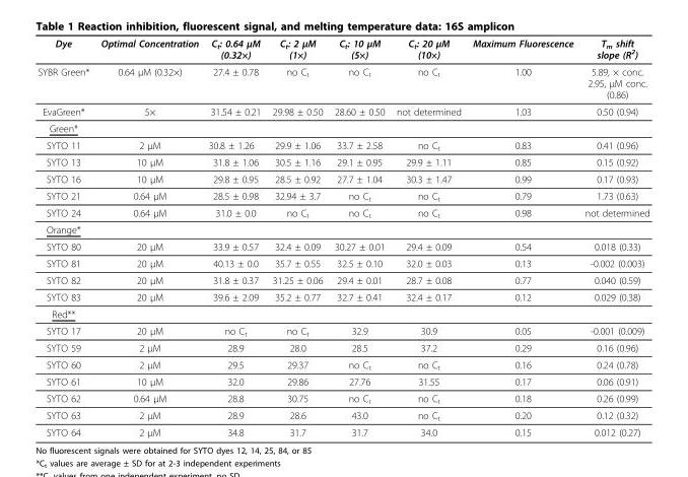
<table><thead><tr><td>Dye</td><td>Optimal Concentration</td><td>C<sub>t</sub>: 0.64 μM (0.32×)</td><td>C<sub>t</sub>: 2 μM (1×)</td><td>C<sub>t</sub>: 10 μM (5×)</td><td>C<sub>t</sub>: 20 μM (10×)</td><td>Maximum Fluorescence</td><td>T<sub>m</sub> shift slope (R<sup>2</sup>)</td></tr></thead><tbody><tr><td>SYBR Green*</td><td>0.64 μM (0.32×)</td><td>27.4 ± 0.78</td><td>no C<sub>t</sub></td><td>no C<sub>t</sub></td><td>no C<sub>t</sub></td><td>1.00</td><td>5.89, × conc. 2.95, μM conc. (0.86)</td></tr><tr><td>EvaGreen*</td><td>5×</td><td>31.54 ± 0.21</td><td>29.98 ± 0.50</td><td>28.60 ± 0.50</td><td>not determined</td><td>1.03</td><td>0.50 (0.94)</td></tr><tr><td colspan="8">Green*</td></tr><tr><td>SYTO 11</td><td>2 μM</td><td>30.8 ± 1.26</td><td>29.9 ± 1.06</td><td>33.7 ± 2.58</td><td>no C<sub>t</sub></td><td>0.83</td><td>0.41 (0.96)</td></tr><tr><td>SYTO 13</td><td>10 μM</td><td>31.8 ± 1.06</td><td>30.5 ± 1.16</td><td>29.1 ± 0.95</td><td>29.9 ± 1.11</td><td>0.85</td><td>0.15 (0.92)</td></tr><tr><td>SYTO 16</td><td>10 μM</td><td>29.8 ± 0.95</td><td>28.5 ± 0.92</td><td>27.7 ± 1.04</td><td>30.3 ± 1.47</td><td>0.99</td><td>0.17 (0.93)</td></tr><tr><td>SYTO 21</td><td>0.64 μM</td><td>28.5 ± 0.98</td><td>32.94 ± 3.7</td><td>no C<sub>t</sub></td><td>no C<sub>t</sub></td><td>0.79</td><td>1.73 (0.63)</td></tr><tr><td>SYTO 24</td><td>0.64 μM</td><td>31.0 ± 0.0</td><td>no C<sub>t</sub></td><td>no C<sub>t</sub></td><td>no C<sub>t</sub></td><td>0.98</td><td>not determined</td></tr><tr><td colspan="8">Orange*</td></tr><tr><td>SYTO 80</td><td>20 μM</td><td>33.9 ± 0.57</td><td>32.4 ± 0.09</td><td>30.27 ± 0.01</td><td>29.4 ± 0.09</td><td>0.54</td><td>0.018 (0.33)</td></tr><tr><td>SYTO 81</td><td>20 μM</td><td>40.13 ± 0.0</td><td>35.7 ± 0.55</td><td>32.5 ± 0.10</td><td>32.0 ± 0.03</td><td>0.13</td><td>-0.002 (0.003)</td></tr><tr><td>SYTO 82</td><td>20 μM</td><td>31.8 ± 0.37</td><td>31.25 ± 0.06</td><td>29.4 ± 0.01</td><td>28.7 ± 0.08</td><td>0.77</td><td>0.040 (0.59)</td></tr><tr><td>SYTO 83</td><td>20 μM</td><td>39.6 ± 2.09</td><td>35.2 ± 0.77</td><td>32.7 ± 0.41</td><td>32.4 ± 0.17</td><td>0.12</td><td>0.029 (0.38)</td></tr><tr><td colspan="8">Red**</td></tr><tr><td>SYTO 17</td><td>20 μM</td><td>no C<sub>t</sub></td><td>no C<sub>t</sub></td><td>32.9</td><td>30.9</td><td>0.05</td><td>-0.001 (0.009)</td></tr><tr><td>SYTO 59</td><td>2 μM</td><td>28.9</td><td>28.0</td><td>28.5</td><td>37.2</td><td>0.29</td><td>0.16 (0.96)</td></tr><tr><td>SYTO 60</td><td>2 μM</td><td>29.5</td><td>29.37</td><td>no C<sub>t</sub></td><td>no C<sub>t</sub></td><td>0.16</td><td>0.24 (0.78)</td></tr><tr><td>SYTO 61</td><td>10 μM</td><td>32.0</td><td>29.86</td><td>27.76</td><td>31.55</td><td>0.17</td><td>0.06 (0.91)</td></tr><tr><td>SYTO 62</td><td>0.64 μM</td><td>28.8</td><td>30.75</td><td>no C<sub>t</sub></td><td>no C<sub>t</sub></td><td>0.18</td><td>0.26 (0.99)</td></tr><tr><td>SYTO 63</td><td>2 μM</td><td>28.9</td><td>28.6</td><td>43.0</td><td>no C<sub>t</sub></td><td>0.20</td><td>0.12 (0.32)</td></tr><tr><td>SYTO 64</td><td>2 μM</td><td>34.8</td><td>31.7</td><td>31.7</td><td>34.0</td><td>0.15</td><td>0.012 (0.27)</td></tr></tbody></table>